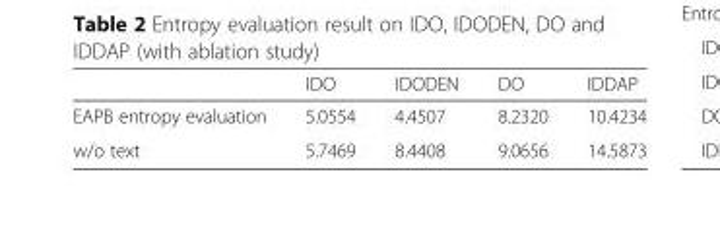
<table><thead><tr><td></td><td>IDO</td><td>IDODEN</td><td>DO</td><td>IDDAP</td></tr></thead><tbody><tr><td>EAPB entropy evaluation</td><td>5.0554</td><td>4.4507</td><td>8.2320</td><td>10.4234</td></tr><tr><td>w/o text</td><td>5.7469</td><td>8.4408</td><td>9.0656</td><td>14.5873</td></tr></tbody></table>